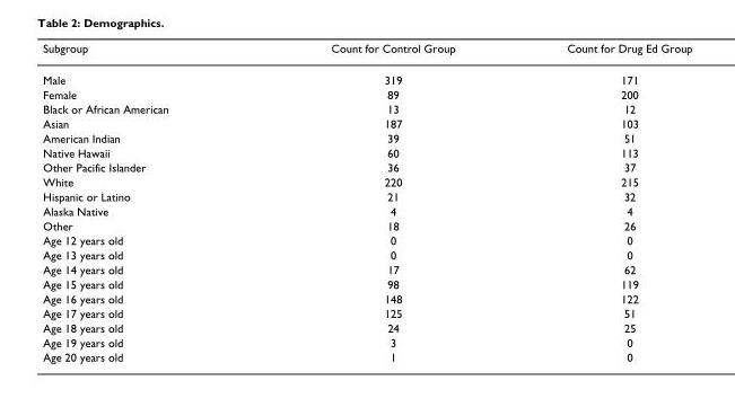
<table><thead><tr><td>Subgroup</td><td>Count for Control Group</td><td>Count for Drug Ed Group</td></tr></thead><tbody><tr><td>Male</td><td>319</td><td>171</td></tr><tr><td>Female</td><td>89</td><td>200</td></tr><tr><td>Black or African American</td><td>13</td><td>12</td></tr><tr><td>Asian</td><td>187</td><td>103</td></tr><tr><td>American Indian</td><td>39</td><td>51</td></tr><tr><td>Native Hawaii</td><td>60</td><td>113</td></tr><tr><td>Other Pacific Islander</td><td>36</td><td>37</td></tr><tr><td>White</td><td>220</td><td>215</td></tr><tr><td>Hispanic or Latino</td><td>21</td><td>32</td></tr><tr><td>Alaska Native</td><td>4</td><td>4</td></tr><tr><td>Other</td><td>18</td><td>26</td></tr><tr><td>Age 12 years old</td><td>0</td><td>0</td></tr><tr><td>Age 13 years old</td><td>0</td><td>0</td></tr><tr><td>Age 14 years old</td><td>17</td><td>62</td></tr><tr><td>Age 15 years old</td><td>98</td><td>119</td></tr><tr><td>Age 16 years old</td><td>148</td><td>122</td></tr><tr><td>Age 17 years old</td><td>125</td><td>51</td></tr><tr><td>Age 18 years old</td><td>24</td><td>25</td></tr><tr><td>Age 19 years old</td><td>3</td><td>0</td></tr><tr><td>Age 20 years old</td><td>1</td><td>0</td></tr></tbody></table>